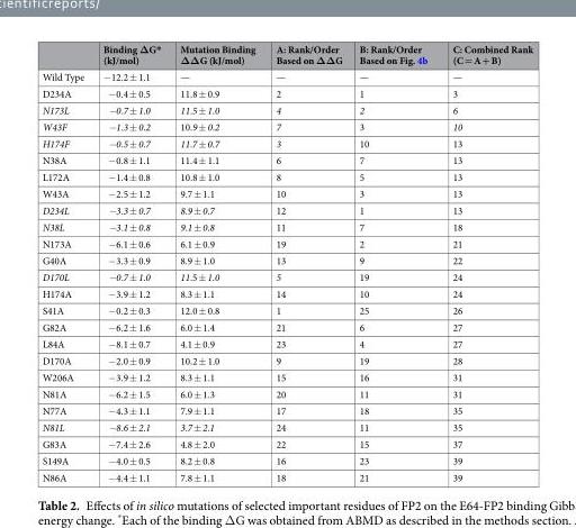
<table><thead><tr><td></td><td>Binding ΔG* (kJ/mol)</td><td>Mutation Binding ΔΔG (kJ/mol)</td><td>A: Rank/Order Based on ΔΔG</td><td>B: Rank/Order Based on Fig. 4b</td><td>C: Combined Rank (C = A + B)</td></tr></thead><tbody><tr><td>Wild Type</td><td>−12.2 ± 1.1</td><td>—</td><td>—</td><td>—</td><td>—</td></tr><tr><td>D234A</td><td>−0.4 ± 0.5</td><td>11.8 ± 0.9</td><td>2</td><td>1</td><td>3</td></tr><tr><td>N173L</td><td>−0.7 ± 1.0</td><td>11.5 ± 1.0</td><td>4</td><td>2</td><td>6</td></tr><tr><td>W43F</td><td>−1.3 ± 0.2</td><td>10.9 ± 0.2</td><td>7</td><td>3</td><td>10</td></tr><tr><td>H174F</td><td>−0.5 ± 0.7</td><td>11.7 ± 0.7</td><td>3</td><td>10</td><td>13</td></tr><tr><td>N38A</td><td>−0.8 ± 1.1</td><td>11.4 ± 1.1</td><td>6</td><td>7</td><td>13</td></tr><tr><td>L172A</td><td>−1.4 ± 0.8</td><td>10.8 ± 1.0</td><td>8</td><td>5</td><td>13</td></tr><tr><td>W43A</td><td>−2.5 ± 1.2</td><td>9.7 ± 1.1</td><td>10</td><td>3</td><td>13</td></tr><tr><td>D234L</td><td>−3.3 ± 0.7</td><td>8.9 ± 0.7</td><td>12</td><td>1</td><td>13</td></tr><tr><td>N38L</td><td>−3.1 ± 0.8</td><td>9.1 ± 0.8</td><td>11</td><td>7</td><td>18</td></tr><tr><td>N173A</td><td>−6.1 ± 0.6</td><td>6.1 ± 0.9</td><td>19</td><td>2</td><td>21</td></tr><tr><td>G40A</td><td>−3.3 ± 0.9</td><td>8.9 ± 1.0</td><td>13</td><td>9</td><td>22</td></tr><tr><td>D170L</td><td>−0.7 ± 1.0</td><td>11.5 ± 1.0</td><td>5</td><td>19</td><td>24</td></tr><tr><td>H174A</td><td>−3.9 ± 1.2</td><td>8.3 ± 1.1</td><td>14</td><td>10</td><td>24</td></tr><tr><td>S41A</td><td>−0.2 ± 0.3</td><td>12.0 ± 0.8</td><td>1</td><td>25</td><td>26</td></tr><tr><td>G82A</td><td>−6.2 ± 1.6</td><td>6.0 ± 1.4</td><td>21</td><td>6</td><td>27</td></tr><tr><td>L84A</td><td>−8.1 ± 0.7</td><td>4.1 ± 0.9</td><td>23</td><td>4</td><td>27</td></tr><tr><td>D170A</td><td>−2.0 ± 0.9</td><td>10.2 ± 1.0</td><td>9</td><td>19</td><td>28</td></tr><tr><td>W206A</td><td>−3.9 ± 1.2</td><td>8.3 ± 1.1</td><td>15</td><td>16</td><td>31</td></tr><tr><td>N81A</td><td>−6.2 ± 1.5</td><td>6.0 ± 1.3</td><td>20</td><td>11</td><td>31</td></tr><tr><td>N77A</td><td>−4.3 ± 1.1</td><td>7.9 ± 1.1</td><td>17</td><td>18</td><td>35</td></tr><tr><td>N81L</td><td>−8.6 ± 2.1</td><td>3.7 ± 2.1</td><td>24</td><td>11</td><td>35</td></tr><tr><td>G83A</td><td>−7.4 ± 2.6</td><td>4.8 ± 2.0</td><td>22</td><td>15</td><td>37</td></tr><tr><td>S149A</td><td>−4.0 ± 0.5</td><td>8.2 ± 0.8</td><td>16</td><td>23</td><td>39</td></tr><tr><td>N86A</td><td>−4.4 ± 1.1</td><td>7.8 ± 1.1</td><td>18</td><td>21</td><td>39</td></tr></tbody></table>